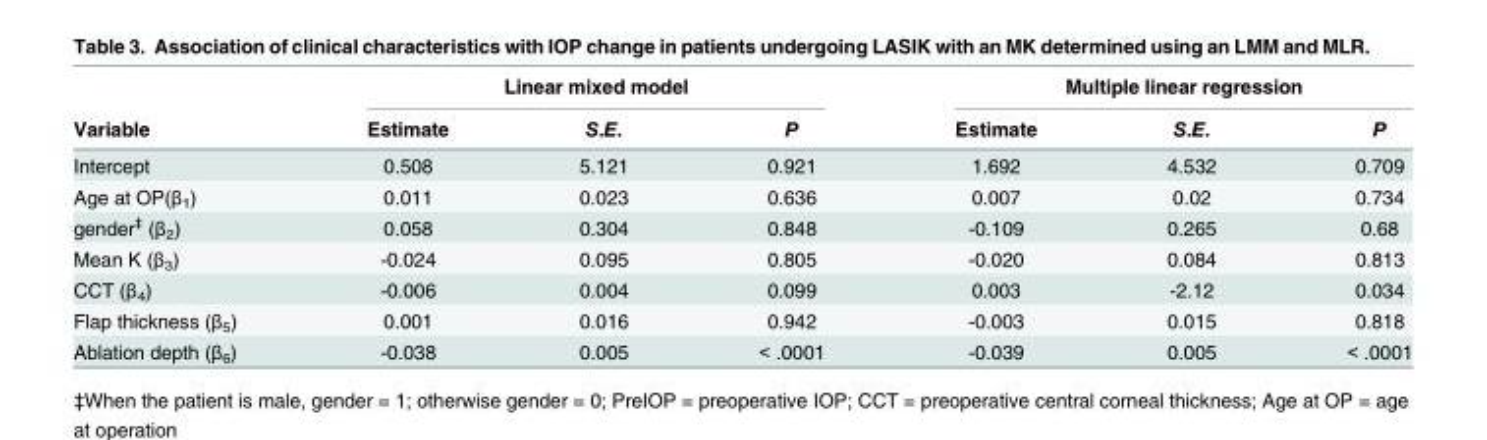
<table><thead><tr><td rowspan="2">Variable</td><td colspan="3">Linear mixed model</td><td colspan="3">Multiple linear regression</td></tr><tr><td>Estimate</td><td>S.E.</td><td>P</td><td>Estimate</td><td>S.E.</td><td>P</td></tr></thead><tbody><tr><td>Intercept</td><td>0.508</td><td>5.121</td><td>0.921</td><td>1.692</td><td>4.532</td><td>0.709</td></tr><tr><td>Age at OP(β<sub>1</sub>)</td><td>0.011</td><td>0.023</td><td>0.636</td><td>0.007</td><td>0.02</td><td>0.734</td></tr><tr><td>gender<sup>‡</sup> (β<sub>2</sub>)</td><td>0.058</td><td>0.304</td><td>0.848</td><td>-0.109</td><td>0.265</td><td>0.68</td></tr><tr><td>Mean K (β<sub>3</sub>)</td><td>-0.024</td><td>0.095</td><td>0.805</td><td>-0.020</td><td>0.084</td><td>0.813</td></tr><tr><td>CCT (β<sub>4</sub>)</td><td>-0.006</td><td>0.004</td><td>0.099</td><td>0.003</td><td>-2.12</td><td>0.034</td></tr><tr><td>Flap thickness (β<sub>5</sub>)</td><td>0.001</td><td>0.016</td><td>0.942</td><td>-0.003</td><td>0.015</td><td>0.818</td></tr><tr><td>Ablation depth (β<sub>6</sub>)</td><td>-0.038</td><td>0.005</td><td>&lt; .0001</td><td>-0.039</td><td>0.005</td><td>&lt; .0001</td></tr></tbody></table>